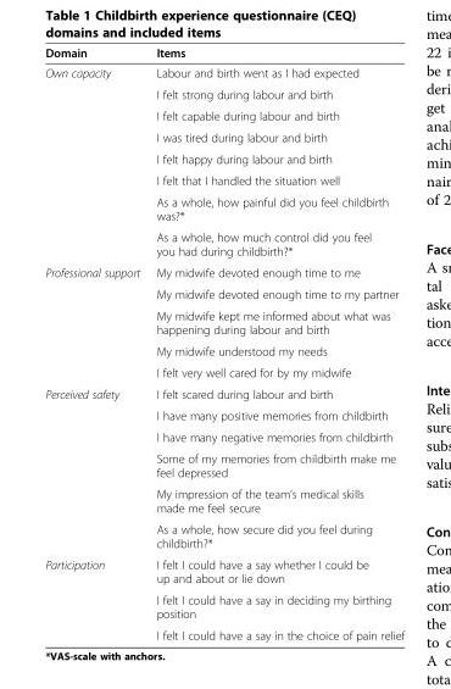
<table><thead><tr><td>Domain</td><td>Items</td></tr></thead><tbody><tr><td rowspan="8">Own capacity</td><td>Labour and birth went as I had expected</td></tr><tr><td>I felt strong during labour and birth</td></tr><tr><td>I felt capable during labour and birth</td></tr><tr><td>I was tired during labour and birth</td></tr><tr><td>I felt happy during labour and birth</td></tr><tr><td>I felt that I handled the situation well</td></tr><tr><td>As a whole, how painful did you feel childbirth was?*</td></tr><tr><td>As a whole, how much control did you feel you had during childbirth?*</td></tr><tr><td rowspan="5">Professional support</td><td>My midwife devoted enough time to me</td></tr><tr><td>My midwife devoted enough time to my partner</td></tr><tr><td>My midwife kept me informed about what was happening during labour and birth</td></tr><tr><td>My midwife understood my needs</td></tr><tr><td>I felt very well cared for by my midwife</td></tr><tr><td rowspan="6">Perceived safety</td><td>I felt scared during labour and birth</td></tr><tr><td>I have many positive memories from childbirth</td></tr><tr><td>I have many negative memories from childbirth</td></tr><tr><td>Some of my memories from childbirth make me feel depressed</td></tr><tr><td>My impression of the team’s medical skills made me feel secure</td></tr><tr><td>As a whole, how secure did you feel during childbirth?*</td></tr><tr><td rowspan="3">Participation</td><td>I felt I could have a say whether I could be up and about or lie down</td></tr><tr><td>I felt I could have a say in deciding my birthing position</td></tr><tr><td>I felt I could have a say in the choice of pain relief</td></tr></tbody></table>